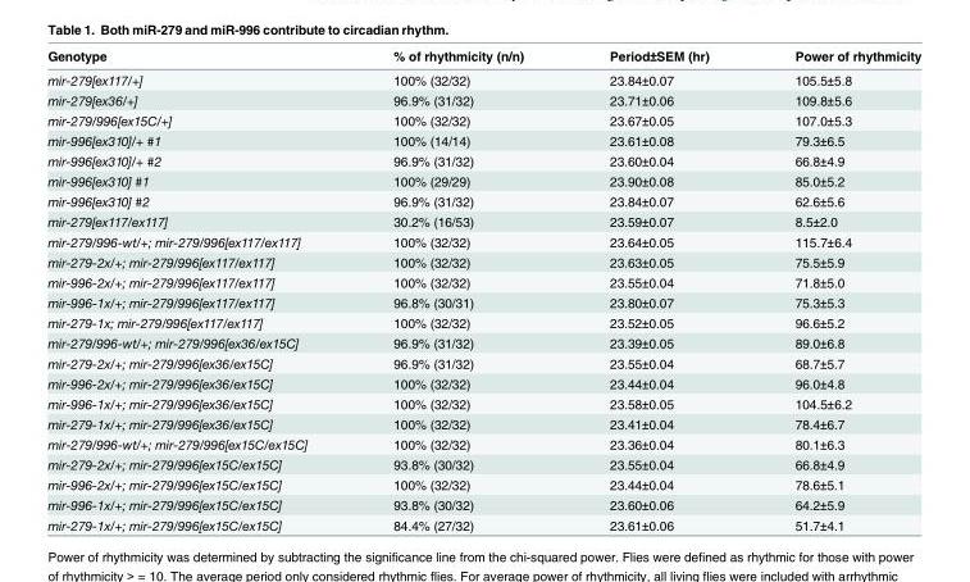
<table><thead><tr><td>Genotype</td><td>% of rhythmicity (n/n)</td><td>Period±SEM (hr)</td><td>Power of rhythmicity</td></tr></thead><tbody><tr><td>mir-279[ex117/+]</td><td>100% (32/32)</td><td>23.84±0.07</td><td>105.5±5.8</td></tr><tr><td>mir-279[ex36/+]</td><td>96.9% (31/32)</td><td>23.71±0.06</td><td>109.8±5.6</td></tr><tr><td>mir-279/996[ex15C/+]</td><td>100% (32/32)</td><td>23.67±0.05</td><td>107.0±5.3</td></tr><tr><td>mir-996[ex310]/+ #1</td><td>100% (14/14)</td><td>23.61±0.08</td><td>79.3±6.5</td></tr><tr><td>mir-996[ex310]/+ #2</td><td>96.9% (31/32)</td><td>23.60±0.04</td><td>66.8±4.9</td></tr><tr><td>mir-996[ex310] #1</td><td>100% (29/29)</td><td>23.90±0.08</td><td>85.0±5.2</td></tr><tr><td>mir-996[ex310] #2</td><td>96.9% (31/32)</td><td>23.84±0.07</td><td>62.6±5.6</td></tr><tr><td>mir-279[ex117/ex117]</td><td>30.2% (16/53)</td><td>23.59±0.07</td><td>8.5±2.0</td></tr><tr><td>mir-279/996-wt/+; mir-279/996[ex117/ex117]</td><td>100% (32/32)</td><td>23.64±0.05</td><td>115.7±6.4</td></tr><tr><td>mir-279-2x/+; mir-279/996[ex117/ex117]</td><td>100% (32/32)</td><td>23.63±0.05</td><td>75.5±5.9</td></tr><tr><td>mir-996-2x/+; mir-279/996[ex117/ex117]</td><td>100% (32/32)</td><td>23.55±0.04</td><td>71.8±5.0</td></tr><tr><td>mir-996-1x/+; mir-279/996[ex117/ex117]</td><td>96.8% (30/31)</td><td>23.80±0.07</td><td>75.3±5.3</td></tr><tr><td>mir-279-1x; mir-279/996[ex117/ex117]</td><td>100% (32/32)</td><td>23.52±0.05</td><td>96.6±5.2</td></tr><tr><td>mir-279/996-wt/+; mir-279/996[ex36/ex15C]</td><td>96.9% (31/32)</td><td>23.39±0.05</td><td>89.0±6.8</td></tr><tr><td>mir-279-2x/+; mir-279/996[ex36/ex15C]</td><td>96.9% (31/32)</td><td>23.55±0.04</td><td>68.7±5.7</td></tr><tr><td>mir-996-2x/+; mir-279/996[ex36/ex15C]</td><td>100% (32/32)</td><td>23.44±0.04</td><td>96.0±4.8</td></tr><tr><td>mir-996-1x/+; mir-279/996[ex36/ex15C]</td><td>100% (32/32)</td><td>23.58±0.05</td><td>104.5±6.2</td></tr><tr><td>mir-279-1x/+; mir-279/996[ex36/ex15C]</td><td>100% (32/32)</td><td>23.41±0.04</td><td>78.4±6.7</td></tr><tr><td>mir-279/996-wt/+; mir-279/996[ex15C/ex15C]</td><td>100% (32/32)</td><td>23.36±0.04</td><td>80.1±6.3</td></tr><tr><td>mir-279-2x/+; mir-279/996[ex15C/ex15C]</td><td>93.8% (30/32)</td><td>23.55±0.04</td><td>66.8±4.9</td></tr><tr><td>mir-996-2x/+; mir-279/996[ex15C/ex15C]</td><td>100% (32/32)</td><td>23.44±0.04</td><td>78.6±5.1</td></tr><tr><td>mir-996-1x/+; mir-279/996[ex15C/ex15C]</td><td>93.8% (30/32)</td><td>23.60±0.06</td><td>64.2±5.9</td></tr><tr><td>mir-279-1x/+; mir-279/996[ex15C/ex15C]</td><td>84.4% (27/32)</td><td>23.61±0.06</td><td>51.7±4.1</td></tr></tbody></table>